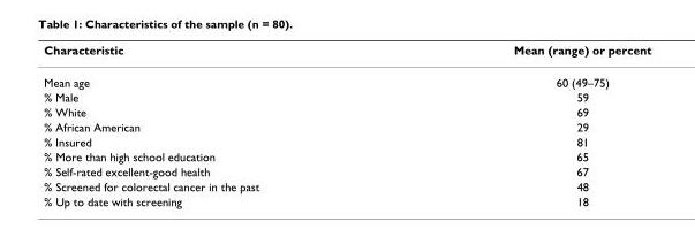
<table><thead><tr><td>Characteristic</td><td>Mean (range) or percent</td></tr></thead><tbody><tr><td>Mean age</td><td>60 (49–75)</td></tr><tr><td>% Male</td><td>59</td></tr><tr><td>% White</td><td>69</td></tr><tr><td>% African American</td><td>29</td></tr><tr><td>% Insured</td><td>81</td></tr><tr><td>% More than high school education</td><td>65</td></tr><tr><td>% Self-rated excellent-good health</td><td>67</td></tr><tr><td>% Screened for colorectal cancer in the past</td><td>48</td></tr><tr><td>% Up to date with screening</td><td>18</td></tr></tbody></table>